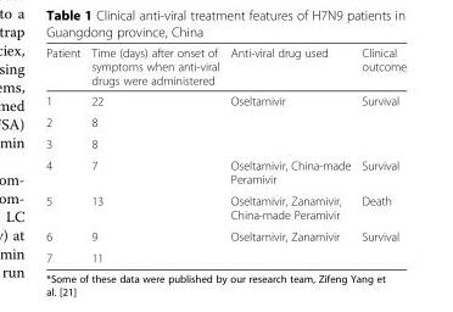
<table><thead><tr><td>Patient</td><td>Time (days) after onset of symptoms when anti-viral drugs were administered</td><td>Anti-viral drug used</td><td>Clinical outcome</td></tr></thead><tbody><tr><td>1</td><td>22</td><td rowspan="3">Oseltamivir</td><td rowspan="3">Survival</td></tr><tr><td>2</td><td>8</td></tr><tr><td>3</td><td>8</td></tr><tr><td>4</td><td>7</td><td>Oseltamivir, China-made Peramivir</td><td>Survival</td></tr><tr><td>5</td><td>13</td><td>Oseltamivir, Zanamivir, China-made Peramivir</td><td>Death</td></tr><tr><td>6</td><td>9</td><td rowspan="2">Oseltamivir, Zanamivir</td><td rowspan="2">Survival</td></tr><tr><td>7</td><td>11</td></tr></tbody></table>